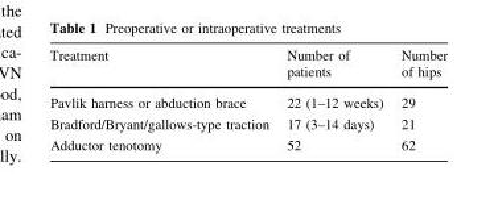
<table><thead><tr><td>Treatment</td><td>Number of patients</td><td>Number of hips</td></tr></thead><tbody><tr><td>Pavlik harness or abduction brace</td><td>22 (1–12 weeks)</td><td>29</td></tr><tr><td>Bradford/Bryant/gallows-type traction</td><td>17 (3–14 days)</td><td>21</td></tr><tr><td>Adductor tenotomy</td><td>52</td><td>62</td></tr></tbody></table>